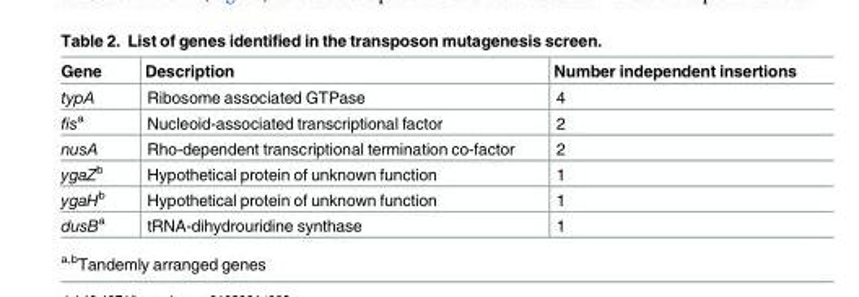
<table><thead><tr><td>Gene</td><td>Description</td><td>Number independent insertions</td></tr></thead><tbody><tr><td>typA</td><td>Ribosome associated GTPase</td><td>4</td></tr><tr><td>fis<sup>a</sup></td><td>Nucleoid-associated transcriptional factor</td><td>2</td></tr><tr><td>nusA</td><td>Rho-dependent transcriptional termination co-factor</td><td>2</td></tr><tr><td>ygaZ<sup>b</sup></td><td>Hypothetical protein of unknown function</td><td>1</td></tr><tr><td>ygaH<sup>b</sup></td><td>Hypothetical protein of unknown function</td><td>1</td></tr><tr><td>dusB<sup>a</sup></td><td>tRNA-dihydrouridine synthase</td><td>1</td></tr></tbody></table>